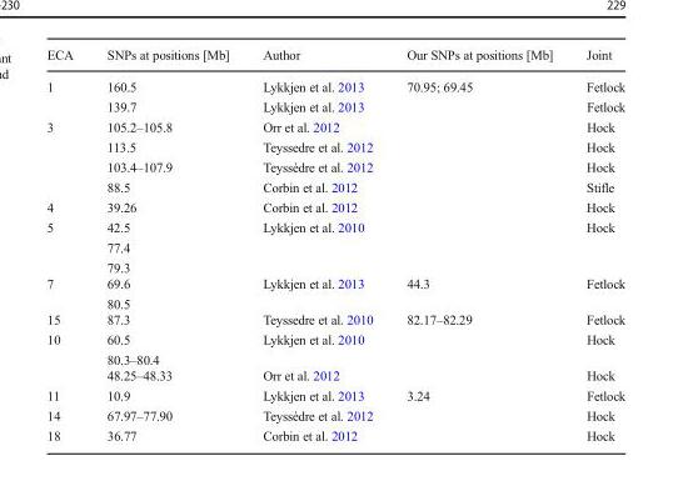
<table><thead><tr><td>ECA</td><td>SNPs at positions [Mb]</td><td>Author</td><td>Our SNPs at positions [Mb]</td><td>Joint</td></tr></thead><tbody><tr><td rowspan="2">1</td><td>160.5</td><td>Lykkjen et al. 2013</td><td>70.95; 69.45</td><td>Fetlock</td></tr><tr><td>139.7</td><td>Lykkjen et al. 2013</td><td></td><td>Fetlock</td></tr><tr><td rowspan="4">3</td><td>105.2–105.8</td><td>Orr et al. 2012</td><td></td><td>Hock</td></tr><tr><td>113.5</td><td>Teyssedre et al. 2012</td><td></td><td>Hock</td></tr><tr><td>103.4–107.9</td><td>Teyssèdre et al. 2012</td><td></td><td>Hock</td></tr><tr><td>88.5</td><td>Corbin et al. 2012</td><td></td><td>Stifle</td></tr><tr><td>4</td><td>39.26</td><td>Corbin et al. 2012</td><td></td><td>Hock</td></tr><tr><td>5</td><td>42.5 77.4 79.3</td><td>Lykkjen et al. 2010</td><td></td><td>Hock</td></tr><tr><td>7</td><td>69.6 80.5</td><td>Lykkjen et al. 2013</td><td>44.3</td><td>Fetlock</td></tr><tr><td>15</td><td>87.3</td><td>Teyssedre et al. 2010</td><td>82.17–82.29</td><td>Fetlock</td></tr><tr><td rowspan="2">10</td><td>60.5 80.3–80.4</td><td>Lykkjen et al. 2010</td><td></td><td>Hock</td></tr><tr><td>48.25–48.33</td><td>Orr et al. 2012</td><td></td><td>Hock</td></tr><tr><td>11</td><td>10.9</td><td>Lykkjen et al. 2013</td><td>3.24</td><td>Fetlock</td></tr><tr><td>14</td><td>67.97–77.90</td><td>Teyssèdre et al. 2012</td><td></td><td>Hock</td></tr><tr><td>18</td><td>36.77</td><td>Corbin et al. 2012</td><td></td><td>Hock</td></tr></tbody></table>